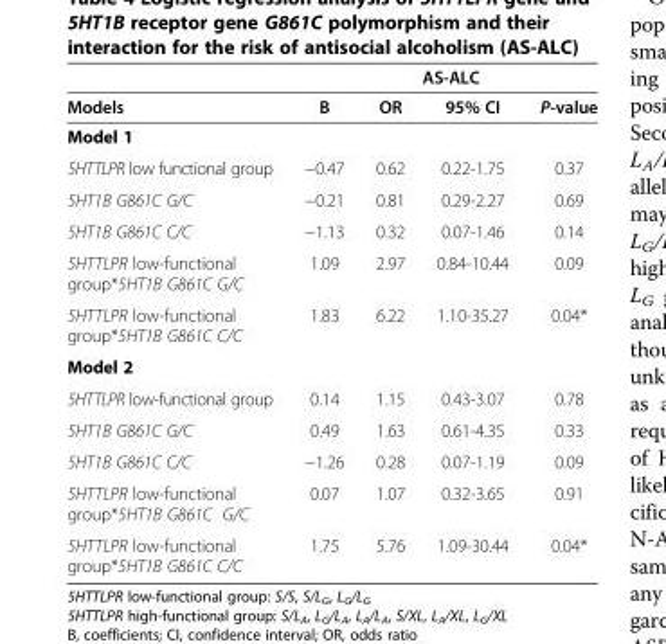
<table><thead><tr><td rowspan="2">Models</td><td colspan="4">AS-ALC</td></tr><tr><td>B</td><td>OR</td><td>95% CI</td><td>P-value</td></tr></thead><tbody><tr><td colspan="5">Model 1</td></tr><tr><td>5HTTLPR low functional group</td><td>−0.47</td><td>0.62</td><td>0.22-1.75</td><td>0.37</td></tr><tr><td>5HT1B G861C G/C</td><td>−0.21</td><td>0.81</td><td>0.29-2.27</td><td>0.69</td></tr><tr><td>5HT1B G861C C/C</td><td>−1.13</td><td>0.32</td><td>0.07-1.46</td><td>0.14</td></tr><tr><td>5HTTLPR low-functional group*5HT1B G861C G/C</td><td>1.09</td><td>2.97</td><td>0.84-10.44</td><td>0.09</td></tr><tr><td>5HTTLPR low-functional group*5HT1B G861C C/C</td><td>1.83</td><td>6.22</td><td>1.10-35.27</td><td>0.04*</td></tr><tr><td colspan="5">Model 2</td></tr><tr><td>5HTTLPR low-functional group</td><td>0.14</td><td>1.15</td><td>0.43-3.07</td><td>0.78</td></tr><tr><td>5HT1B G861C G/C</td><td>0.49</td><td>1.63</td><td>0.61-4.35</td><td>0.33</td></tr><tr><td>5HT1B G861C C/C</td><td>−1.26</td><td>0.28</td><td>0.07-1.19</td><td>0.09</td></tr><tr><td>5HTTLPR low-functional group*5HT1B G861C G/C</td><td>0.07</td><td>1.07</td><td>0.32-3.65</td><td>0.91</td></tr><tr><td>5HTTLPR low-functional group*5HT1B G861C C/C</td><td>1.75</td><td>5.76</td><td>1.09-30.44</td><td>0.04*</td></tr></tbody></table>